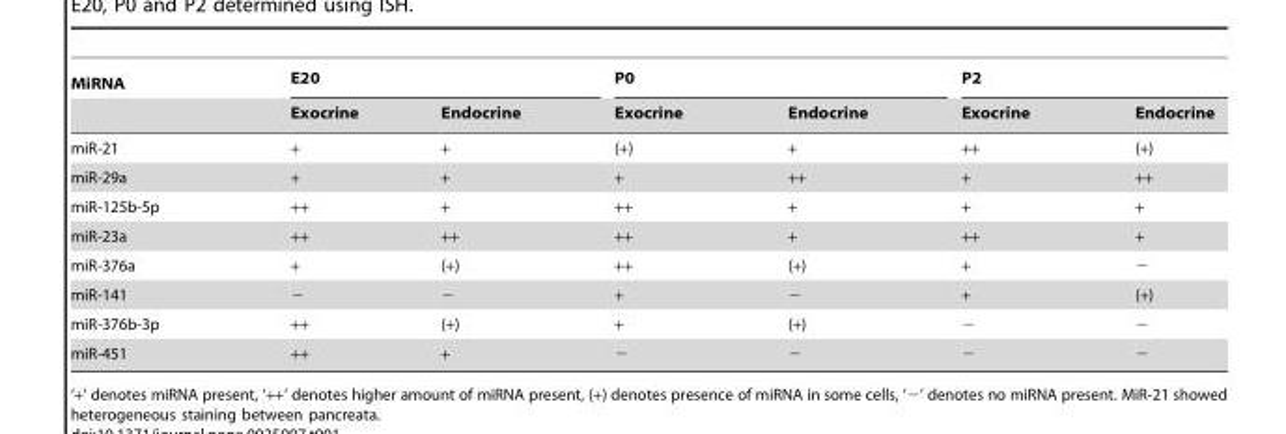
<table><thead><tr><td rowspan="2">MiRNA</td><td colspan="2">E20</td><td colspan="2">P0</td><td colspan="2">P2</td></tr><tr><td>Exocrine</td><td>Endocrine</td><td>Exocrine</td><td>Endocrine</td><td>Exocrine</td><td>Endocrine</td></tr></thead><tbody><tr><td>miR-21</td><td>+</td><td>+</td><td>(+)</td><td>+</td><td>++</td><td>(+)</td></tr><tr><td>miR-29a</td><td>+</td><td>+</td><td>+</td><td>++</td><td>+</td><td>++</td></tr><tr><td>miR-125b-5p</td><td>++</td><td>+</td><td>++</td><td>+</td><td>+</td><td>+</td></tr><tr><td>miR-23a</td><td>++</td><td>++</td><td>++</td><td>+</td><td>++</td><td>+</td></tr><tr><td>miR-376a</td><td>+</td><td>(+)</td><td>++</td><td>(+)</td><td>+</td><td>−</td></tr><tr><td>miR-141</td><td>−</td><td>−</td><td>+</td><td>−</td><td>+</td><td>(+)</td></tr><tr><td>miR-376b-3p</td><td>++</td><td>(+)</td><td>+</td><td>(+)</td><td>−</td><td>−</td></tr><tr><td>miR-451</td><td>++</td><td>+</td><td>−</td><td>−</td><td>−</td><td>−</td></tr></tbody></table>